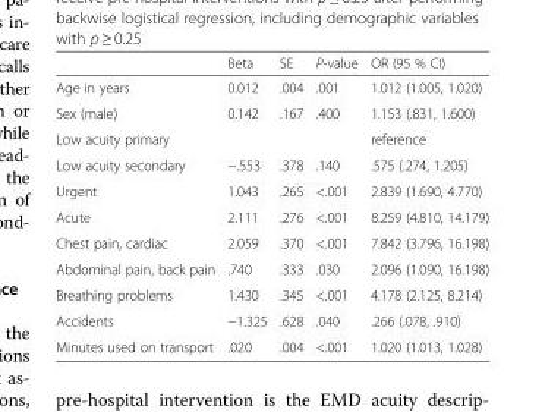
<table><thead><tr><td></td><td>Beta</td><td>SE</td><td>P-value</td><td>OR (95 % CI)</td></tr></thead><tbody><tr><td>Age in years</td><td>0.012</td><td>.004</td><td>.001</td><td>1.012 (1.005, 1.020)</td></tr><tr><td>Sex (male)</td><td>0.142</td><td>.167</td><td>.400</td><td>1.153 (.831, 1.600)</td></tr><tr><td>Low acuity primary</td><td></td><td></td><td></td><td>reference</td></tr><tr><td>Low acuity secondary</td><td>−.553</td><td>.378</td><td>.140</td><td>.575 (.274, 1.205)</td></tr><tr><td>Urgent</td><td>1.043</td><td>.265</td><td>&lt;.001</td><td>2.839 (1.690, 4.770)</td></tr><tr><td>Acute</td><td>2.111</td><td>.276</td><td>&lt;.001</td><td>8.259 (4.810, 14.179)</td></tr><tr><td>Chest pain, cardiac</td><td>2.059</td><td>.370</td><td>&lt;.001</td><td>7.842 (3.796, 16.198)</td></tr><tr><td>Abdominal pain, back pain</td><td>.740</td><td>.333</td><td>.030</td><td>2.096 (1.090, 16.198)</td></tr><tr><td>Breathing problems</td><td>1.430</td><td>.345</td><td>&lt;.001</td><td>4.178 (2.125, 8.214)</td></tr><tr><td>Accidents</td><td>−1.325</td><td>.628</td><td>.040</td><td>.266 (.078, .910)</td></tr><tr><td>Minutes used on transport</td><td>.020</td><td>.004</td><td>&lt;.001</td><td>1.020 (1.013, 1.028)</td></tr></tbody></table>